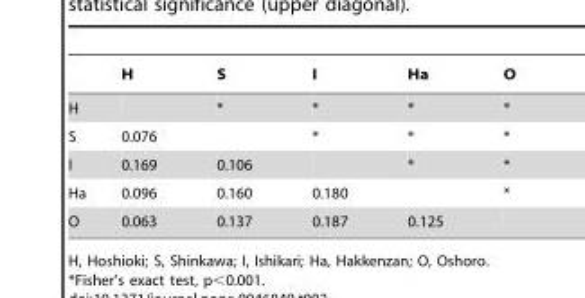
<table><thead><tr><td></td><td>H</td><td>S</td><td>I</td><td>Ha</td><td>O</td></tr></thead><tbody><tr><td>H</td><td></td><td>*</td><td>*</td><td>*</td><td>*</td></tr><tr><td>S</td><td>0.076</td><td></td><td>*</td><td>*</td><td>*</td></tr><tr><td>I</td><td>0.169</td><td>0.106</td><td></td><td>*</td><td>*</td></tr><tr><td>Ha</td><td>0.096</td><td>0.160</td><td>0.180</td><td></td><td>*</td></tr><tr><td>O</td><td>0.063</td><td>0.137</td><td>0.187</td><td>0.125</td><td></td></tr></tbody></table>